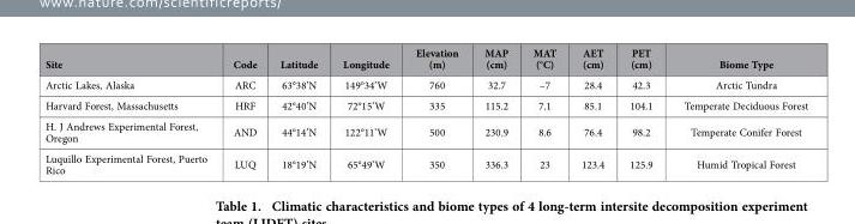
<table><thead><tr><td>Site</td><td>Code</td><td>Latitude</td><td>Longitude</td><td>Elevation (m)</td><td>MAP (cm)</td><td>MAT (°C)</td><td>AET (cm)</td><td>PET (cm)</td><td>Biome Type</td></tr></thead><tbody><tr><td>Arctic Lakes, Alaska</td><td>ARC</td><td>63°38’N</td><td>149°34’W</td><td>760</td><td>32.7</td><td>–7</td><td>28.4</td><td>42.3</td><td>Arctic Tundra</td></tr><tr><td>Harvard Forest, Massachusetts</td><td>HRF</td><td>42°40’N</td><td>72°15’W</td><td>335</td><td>115.2</td><td>7.1</td><td>85.1</td><td>104.1</td><td>Temperate Deciduous Forest</td></tr><tr><td>H. J Andrews Experimental Forest, Oregon</td><td>AND</td><td>44°14’N</td><td>122°11’W</td><td>500</td><td>230.9</td><td>8.6</td><td>76.4</td><td>98.2</td><td>Temperate Conifer Forest</td></tr><tr><td>Luquillo Experimental Forest, Puerto Rico</td><td>LUQ</td><td>18°19’N</td><td>65°49’W</td><td>350</td><td>336.3</td><td>23</td><td>123.4</td><td>125.9</td><td>Humid Tropical Forest</td></tr></tbody></table>